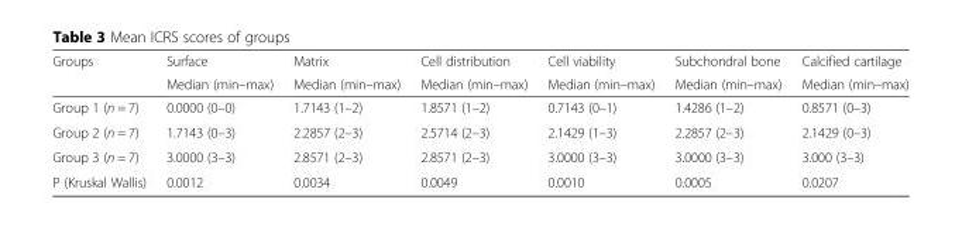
<table><thead><tr><td rowspan="2">Groups</td><td rowspan="2">Surface Median (min–max)</td><td rowspan="2">Matrix Median (min–max)</td><td rowspan="2">Cell distribution Median (min–max)</td><td rowspan="2">Cell viability Median (min–max)</td><td rowspan="2">Subchondral bone Median (min–max)</td><td rowspan="2">Calcified cartilage Median (min–max)</td></tr><tr></tr></thead><tbody><tr><td>Group 1 (n = 7)</td><td>0.0000 (0–0)</td><td>1.7143 (1–2)</td><td>1.8571 (1–2)</td><td>0.7143 (0–1)</td><td>1.4286 (1–2)</td><td>0.8571 (0–3)</td></tr><tr><td>Group 2 (n = 7)</td><td>1.7143 (0–3)</td><td>2.2857 (2–3)</td><td>2.5714 (2–3)</td><td>2.1429 (1–3)</td><td>2.2857 (2–3)</td><td>2.1429 (0–3)</td></tr><tr><td>Group 3 (n = 7)</td><td>3.0000 (3–3)</td><td>2.8571 (2–3)</td><td>2.8571 (2–3)</td><td>3.0000 (3–3)</td><td>3.0000 (3–3)</td><td>3.000 (3–3)</td></tr><tr><td>P (Kruskal Wallis)</td><td>0.0012</td><td>0.0034</td><td>0.0049</td><td>0.0010</td><td>0.0005</td><td>0.0207</td></tr></tbody></table>